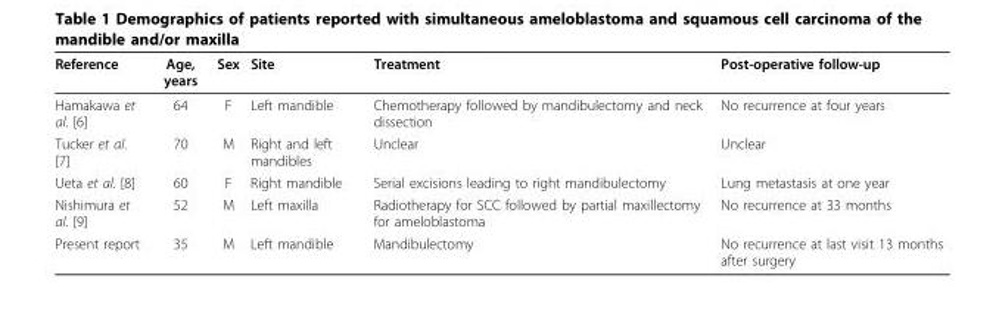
<table><thead><tr><td>Reference</td><td>Age, years</td><td>Sex</td><td>Site</td><td>Treatment</td><td>Post-operative follow-up</td></tr></thead><tbody><tr><td>Hamakawa et al. [6]</td><td>64</td><td>F</td><td>Left mandible</td><td>Chemotherapy followed by mandibulectomy and neck dissection</td><td>No recurrence at four years</td></tr><tr><td>Tucker et al. [7]</td><td>70</td><td>M</td><td>Right and left mandibles</td><td>Unclear</td><td>Unclear</td></tr><tr><td>Ueta et al. [8]</td><td>60</td><td>F</td><td>Right mandible</td><td>Serial excisions leading to right mandibulectomy</td><td>Lung metastasis at one year</td></tr><tr><td>Nishimura et al. [9]</td><td>52</td><td>M</td><td>Left maxilla</td><td>Radiotherapy for SCC followed by partial maxillectomy for ameloblastoma</td><td>No recurrence at 33 months</td></tr><tr><td>Present report</td><td>35</td><td>M</td><td>Left mandible</td><td>Mandibulectomy</td><td>No recurrence at last visit 13 months after surgery</td></tr></tbody></table>